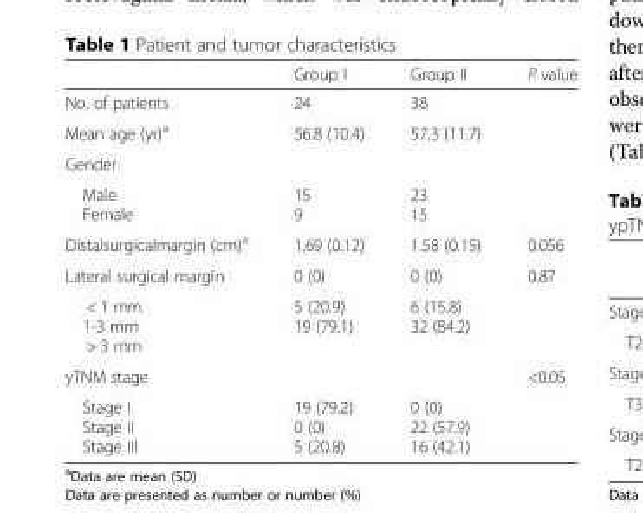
<table><thead><tr><td></td><td>Group I</td><td>Group II</td><td>P value</td></tr></thead><tbody><tr><td>No. of patients</td><td>24</td><td>38</td><td></td></tr><tr><td>Mean age (yr)<sup>a</sup></td><td>56.8 (10.4)</td><td>57.3 (11.7)</td><td></td></tr><tr><td colspan="4">Gender</td></tr><tr><td>Male Female</td><td>15 9</td><td>23 15</td><td></td></tr><tr><td>Distalsurgicalmargin (cm)<sup>a</sup></td><td>1.69 (0.12)</td><td>1.58 (0.15)</td><td>0.056</td></tr><tr><td>Lateral surgical margin</td><td>0 (0)</td><td>0 (0)</td><td rowspan="2">0.87</td></tr><tr><td>&lt; 1 mm 1-3 mm &gt; 3 mm</td><td>5 (20.9) 19 (79.1)</td><td>6 (15.8) 32 (84.2)</td></tr><tr><td colspan="3">yTNM stage</td><td rowspan="2">&lt;0.05</td></tr><tr><td>Stage I Stage II Stage III</td><td>19 (79.2) 0 (0) 5 (20.8)</td><td>0 (0) 22 (57.9) 16 (42.1)</td></tr></tbody></table>